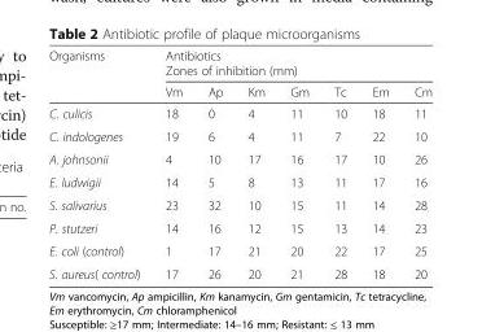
<table><thead><tr><td rowspan="2">Organisms</td><td colspan="7">Antibiotics Zones of inhibition (mm)</td></tr><tr><td>Vm</td><td>Ap</td><td>Km</td><td>Gm</td><td>Tc</td><td>Em</td><td>Cm</td></tr></thead><tbody><tr><td>C. culicis</td><td>18</td><td>0</td><td>4</td><td>11</td><td>10</td><td>18</td><td>11</td></tr><tr><td>C. indologenes</td><td>19</td><td>6</td><td>4</td><td>11</td><td>7</td><td>22</td><td>10</td></tr><tr><td>A. johnsonii</td><td>4</td><td>10</td><td>17</td><td>16</td><td>17</td><td>10</td><td>26</td></tr><tr><td>E. ludwigii</td><td>14</td><td>5</td><td>8</td><td>13</td><td>11</td><td>17</td><td>16</td></tr><tr><td>S. salivarius</td><td>23</td><td>32</td><td>10</td><td>15</td><td>11</td><td>14</td><td>28</td></tr><tr><td>P. stutzeri</td><td>14</td><td>16</td><td>12</td><td>15</td><td>13</td><td>14</td><td>23</td></tr><tr><td>E. coli (control)</td><td>1</td><td>17</td><td>21</td><td>20</td><td>22</td><td>17</td><td>25</td></tr><tr><td>S. aureus( control)</td><td>17</td><td>26</td><td>20</td><td>21</td><td>28</td><td>18</td><td>20</td></tr></tbody></table>